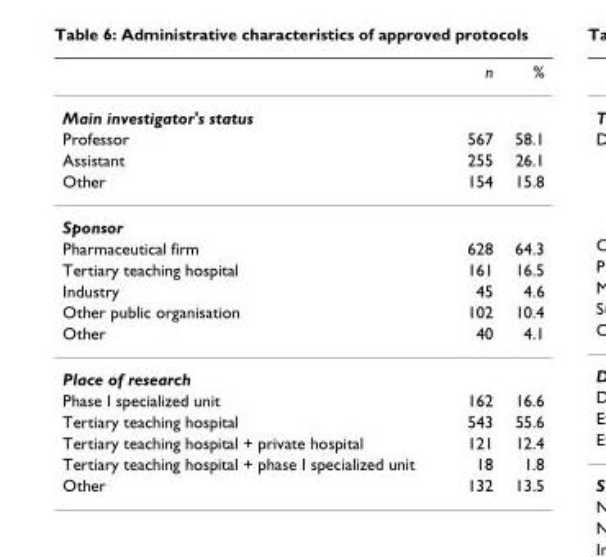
<table><thead><tr><td></td><td>n</td><td>%</td></tr></thead><tbody><tr><td colspan="3">Main investigator&#x27;s status</td></tr><tr><td>Professor</td><td>567</td><td>58.1</td></tr><tr><td>Assistant</td><td>255</td><td>26.1</td></tr><tr><td>Other</td><td>154</td><td>15.8</td></tr><tr><td colspan="3">Sponsor</td></tr><tr><td>Pharmaceutical firm</td><td>628</td><td>64.3</td></tr><tr><td>Tertiary teaching hospital</td><td>161</td><td>16.5</td></tr><tr><td>Industry</td><td>45</td><td>4.6</td></tr><tr><td>Other public organisation</td><td>102</td><td>10.4</td></tr><tr><td>Other</td><td>40</td><td>4.1</td></tr><tr><td colspan="3">Place of research</td></tr><tr><td>Phase I specialized unit</td><td>162</td><td>16.6</td></tr><tr><td>Tertiary teaching hospital</td><td>543</td><td>55.6</td></tr><tr><td>Tertiary teaching hospital + private hospital</td><td>121</td><td>12.4</td></tr><tr><td>Tertiary teaching hospital + phase I specialized unit</td><td>18</td><td>1.8</td></tr><tr><td>Other</td><td>132</td><td>13.5</td></tr></tbody></table>